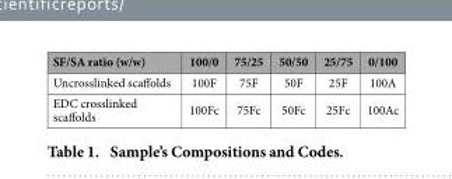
<table><thead><tr><td>SF/SA ratio (w/w)</td><td>100/0</td><td>75/25</td><td>50/50</td><td>25/75</td><td>0/100</td></tr></thead><tbody><tr><td>Uncrosslinked scaffolds</td><td>100F</td><td>75F</td><td>50F</td><td>25F</td><td>100A</td></tr><tr><td>EDC crosslinked scaffolds</td><td>100Fc</td><td>75Fc</td><td>50Fc</td><td>25Fc</td><td>100Ac</td></tr></tbody></table>